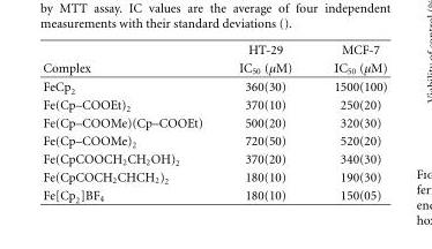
<table><thead><tr><td rowspan="2">Complex</td><td rowspan="2">HT-29 IC<sub>50</sub> (μM)</td><td rowspan="2">MCF-7 IC<sub>50</sub> (μM)</td></tr><tr></tr></thead><tbody><tr><td>FeCp<sub>2</sub></td><td>360(30)</td><td>1500(100)</td></tr><tr><td>Fe(Cp–COOEt)<sub>2</sub></td><td>370(10)</td><td>250(20)</td></tr><tr><td>Fe(Cp–COOMe)(Cp–COOEt)</td><td>500(20)</td><td>320(30)</td></tr><tr><td>Fe(Cp–COOMe)<sub>2</sub></td><td>720(50)</td><td>520(20)</td></tr><tr><td>Fe(CpCOOCH<sub>2</sub>CH<sub>2</sub>OH)<sub>2</sub></td><td>370(20)</td><td>340(30)</td></tr><tr><td>Fe(CpCOCH<sub>2</sub>CHCH<sub>2</sub>)<sub>2</sub></td><td>180(10)</td><td>190(30)</td></tr><tr><td>Fe[Cp<sub>2</sub>]BF<sub>4</sub></td><td>180(10)</td><td>150(05)</td></tr></tbody></table>